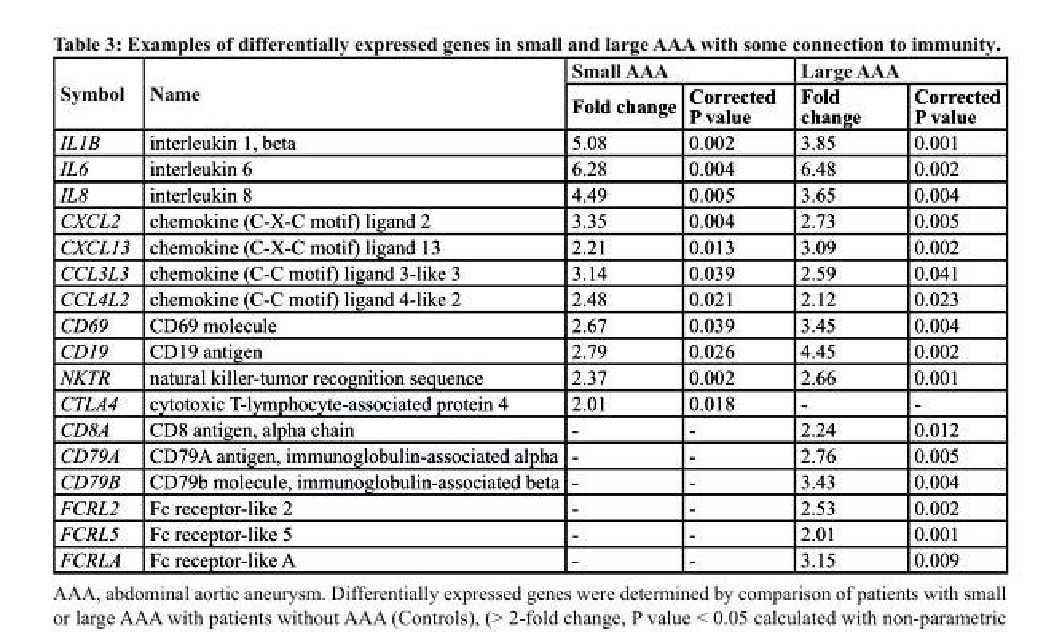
<table><thead><tr><td rowspan="2">symbol</td><td rowspan="2">name</td><td colspan="2">small AAA</td><td colspan="2">large AAA</td></tr><tr><td>Fold change</td><td>corrected P value</td><td>Fold change</td><td>corrected P value</td></tr></thead><tbody><tr><td>IL1B</td><td>interleukin 1, beta</td><td>5.08</td><td>0.002</td><td>3.85</td><td>0.001</td></tr><tr><td>IL6</td><td>interleukin 6</td><td>6.28</td><td>0.004</td><td>6.48</td><td>0.002</td></tr><tr><td>IL8</td><td>interleukin 8</td><td>4.49</td><td>0.005</td><td>3.65</td><td>0.004</td></tr><tr><td>CXCL2</td><td>chemokine (C-X-C motif) ligand 2</td><td>3.35</td><td>0.004</td><td>2.73</td><td>0.005</td></tr><tr><td>CXCL13</td><td>chemokine (C-X-C motif) ligand 13</td><td>2.21</td><td>0.013</td><td>3.09</td><td>0.002</td></tr><tr><td>CCL3L3</td><td>chemokine (C-C motif) ligand 3-like 3</td><td>3.14</td><td>0.039</td><td>2.59</td><td>0.041</td></tr><tr><td>CCL4L2</td><td>chemokine (C-C motif) ligand 4-like 2</td><td>2.48</td><td>0.021</td><td>2.12</td><td>0.023</td></tr><tr><td>CD69</td><td>CD69 molecule</td><td>2.67</td><td>0.039</td><td>3.45</td><td>0.004</td></tr><tr><td>CD19</td><td>CD19 antigen</td><td>2.79</td><td>0.026</td><td>4.45</td><td>0.002</td></tr><tr><td>NKTR</td><td>natural killer-tumor recognition sequence</td><td>2.37</td><td>0.002</td><td>2.66</td><td>0.001</td></tr><tr><td>CTLA4</td><td>cytotoxic T-lymphocyte-associated protein 4</td><td>2.01</td><td>0.018</td><td>-</td><td>-</td></tr><tr><td>CD8A</td><td>CD8 antigen, alpha chain</td><td>-</td><td>-</td><td>2.24</td><td>0.012</td></tr><tr><td>CD79A</td><td>CD79A antigen, immunoglobulin-associated alpha</td><td>-</td><td>-</td><td>2.76</td><td>0.005</td></tr><tr><td>CD79B</td><td>CD79b molecule, immunoglobulin-associated beta</td><td>-</td><td>-</td><td>3.43</td><td>0.004</td></tr><tr><td>FCRL2</td><td>Fc receptor-like 2</td><td>-</td><td>-</td><td>2.53</td><td>0.002</td></tr><tr><td>FCRL5</td><td>Fc receptor-like 5</td><td>-</td><td>-</td><td>2.01</td><td>0.001</td></tr><tr><td>FCRLA</td><td>Fc receptor-like A</td><td>-</td><td>-</td><td>3.15</td><td>0.009</td></tr></tbody></table>